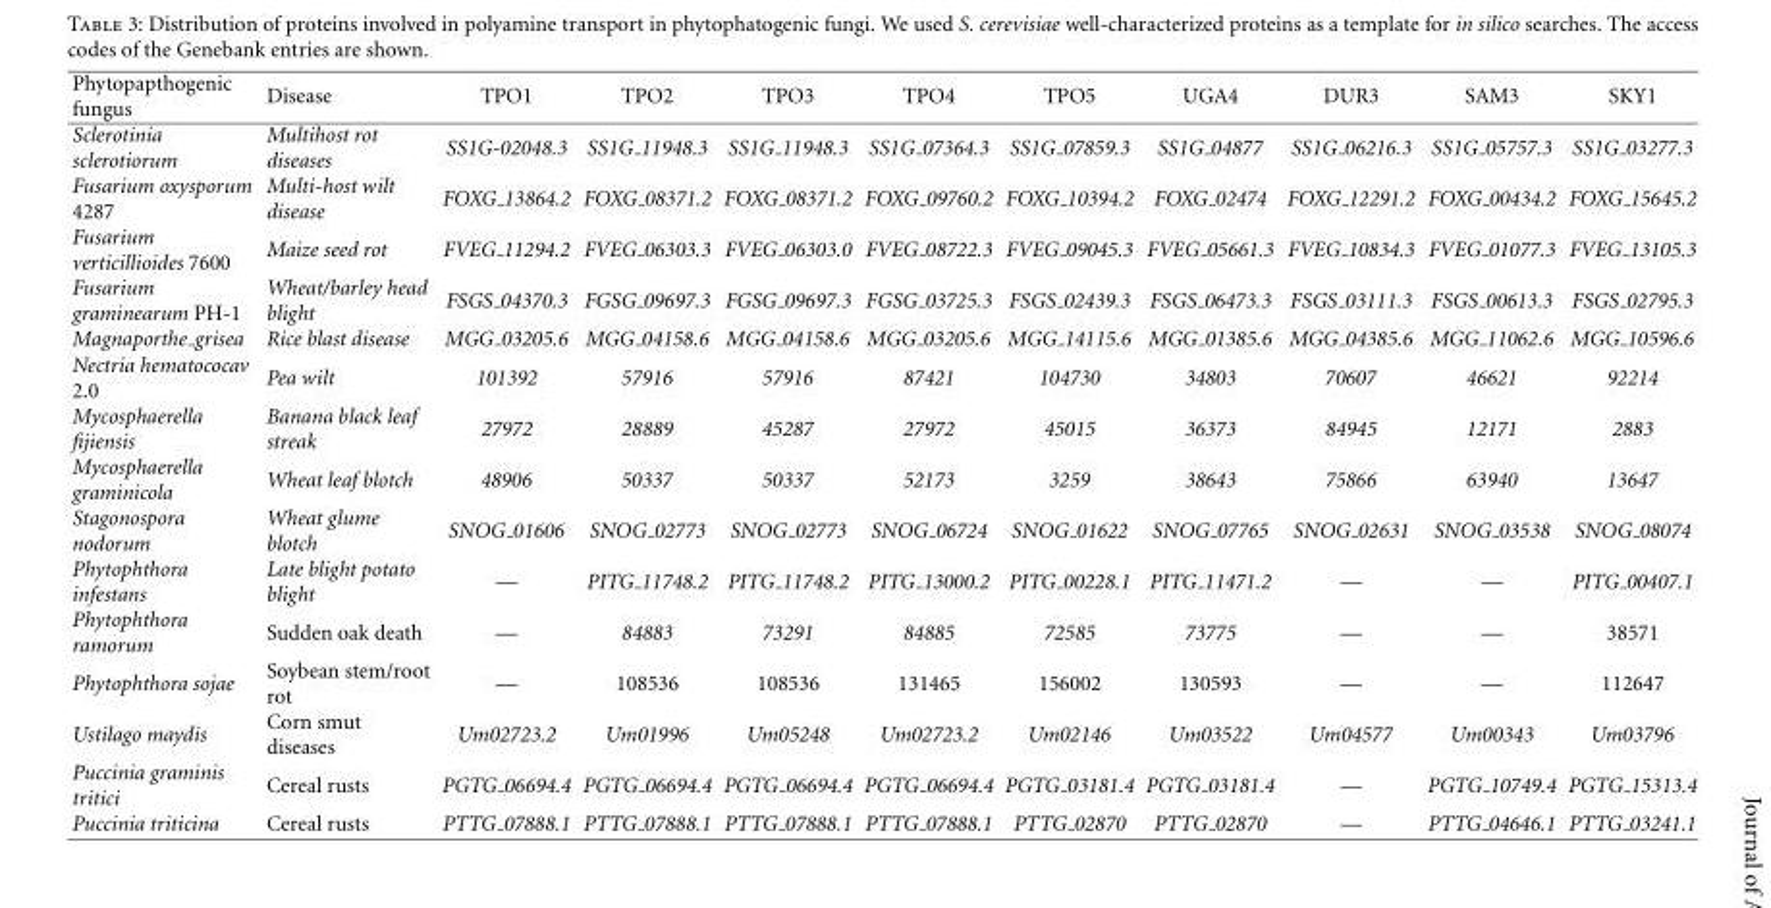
<table><thead><tr><td>Phytopapthogenic fungus</td><td>Disease</td><td>TPO1</td><td>TPO2</td><td>TPO3</td><td>TPO4</td><td>TPO5</td><td>UGA4</td><td>DUR3</td><td>SAM3</td><td>SKY1</td></tr></thead><tbody><tr><td>Sclerotinia sclerotiorum</td><td>Multihost rot diseases</td><td>SS1G-02048.3</td><td>SS1G 11948.3</td><td>SS1G 11948.3</td><td>SS1G 07364.3</td><td>SS1G 07859.3</td><td>SS1G 04877</td><td>SS1G 06216.3</td><td>SS1G 05757.3</td><td>SS1G 03277.3</td></tr><tr><td>Fusarium oxysporum 4287</td><td>Multi-host wilt disease</td><td>FOXG 13864.2</td><td>FOXG 08371.2</td><td>FOXG 08371.2</td><td>FOXG 09760.2</td><td>FOXG 10394.2</td><td>FOXG 02474</td><td>FOXG 12291.2</td><td>FOXG 00434.2</td><td>FOXG 15645.2</td></tr><tr><td>Fusarium verticillioides 7600</td><td>Maize seed rot</td><td>FVEG 11294.2</td><td>FVEG 06303.3</td><td>FVEG 06303.0</td><td>FVEG 08722.3</td><td>FVEG 09045.3</td><td>FVEG 05661.3</td><td>FVEG 10834.3</td><td>FVEG 01077.3</td><td>FVEG 13105.3</td></tr><tr><td>Fusarium graminearum PH-1</td><td>Wheat/barley head blight</td><td>FSGS 04370.3</td><td>FGSG 09697.3</td><td>FGSG 09697.3</td><td>FGSG 03725.3</td><td>FSGS 02439.3</td><td>FSGS 06473.3</td><td>FSGS 03111.3</td><td>FSGS 00613.3</td><td>FSGS 02795.3</td></tr><tr><td>Magnaporthe grisea</td><td>Rice blast disease</td><td>MGG 03205.6</td><td>MGG 04158.6</td><td>MGG 04158.6</td><td>MGG 03205.6</td><td>MGG 14115.6</td><td>MGG 01385.6</td><td>MGG 04385.6</td><td>MGG 11062.6</td><td>MGG 10596.6</td></tr><tr><td>Nectria hematococav 2.0</td><td>Pea wilt</td><td>101392</td><td>57916</td><td>57916</td><td>87421</td><td>104730</td><td>34803</td><td>70607</td><td>46621</td><td>92214</td></tr><tr><td>Mycosphaerella fijiensis</td><td>Banana black leaf streak</td><td>27972</td><td>28889</td><td>45287</td><td>27972</td><td>45015</td><td>36373</td><td>84945</td><td>12171</td><td>2883</td></tr><tr><td>Mycosphaerella graminicola</td><td>Wheat leaf blotch</td><td>48906</td><td>50337</td><td>50337</td><td>52173</td><td>3259</td><td>38643</td><td>75866</td><td>63940</td><td>13647</td></tr><tr><td>Stagonospora nodorum</td><td>Wheat glume blotch</td><td>SNOG 01606</td><td>SNOG 02773</td><td>SNOG 02773</td><td>SNOG 06724</td><td>SNOG 01622</td><td>SNOG 07765</td><td>SNOG 02631</td><td>SNOG 03538</td><td>SNOG 08074</td></tr><tr><td>Phytophthora infestans</td><td>Late blight potato blight</td><td>—</td><td>PITG 11748.2</td><td>PITG 11748.2</td><td>PITG 13000.2</td><td>PITG 00228.1</td><td>PITG 11471.2</td><td>—</td><td>—</td><td>PITG 00407.1</td></tr><tr><td>Phytophthora ramorum</td><td>Sudden oak death</td><td>—</td><td>84883</td><td>73291</td><td>84885</td><td>72585</td><td>73775</td><td>—</td><td>—</td><td>38571</td></tr><tr><td>Phytophthora sojae</td><td>Soybean stem/root rot</td><td>—</td><td>108536</td><td>108536</td><td>131465</td><td>156002</td><td>130593</td><td>—</td><td>—</td><td>112647</td></tr><tr><td>Ustilago maydis</td><td>Corn smut diseases</td><td>Um02723.2</td><td>Um01996</td><td>Um05248</td><td>Um02723.2</td><td>Um02146</td><td>Um03522</td><td>Um04577</td><td>Um00343</td><td>Um03796</td></tr><tr><td>Puccinia graminis tritici</td><td>Cereal rusts</td><td>PGTG 06694.4</td><td>PGTG 06694.4</td><td>PGTG 06694.4</td><td>PGTG 06694.4</td><td>PGTG 03181.4</td><td>PGTG 03181.4</td><td>—</td><td>PGTG 10749.4</td><td>PGTG 15313.4</td></tr><tr><td>Puccinia triticina</td><td>Cereal rusts</td><td>PTTG 07888.1</td><td>PTTG 07888.1</td><td>PTTG 07888.1</td><td>PTTG 07888.1</td><td>PTTG 02870</td><td>PTTG 02870</td><td>—</td><td>PTTG 04646.1</td><td>PTTG 03241.1</td></tr></tbody></table>